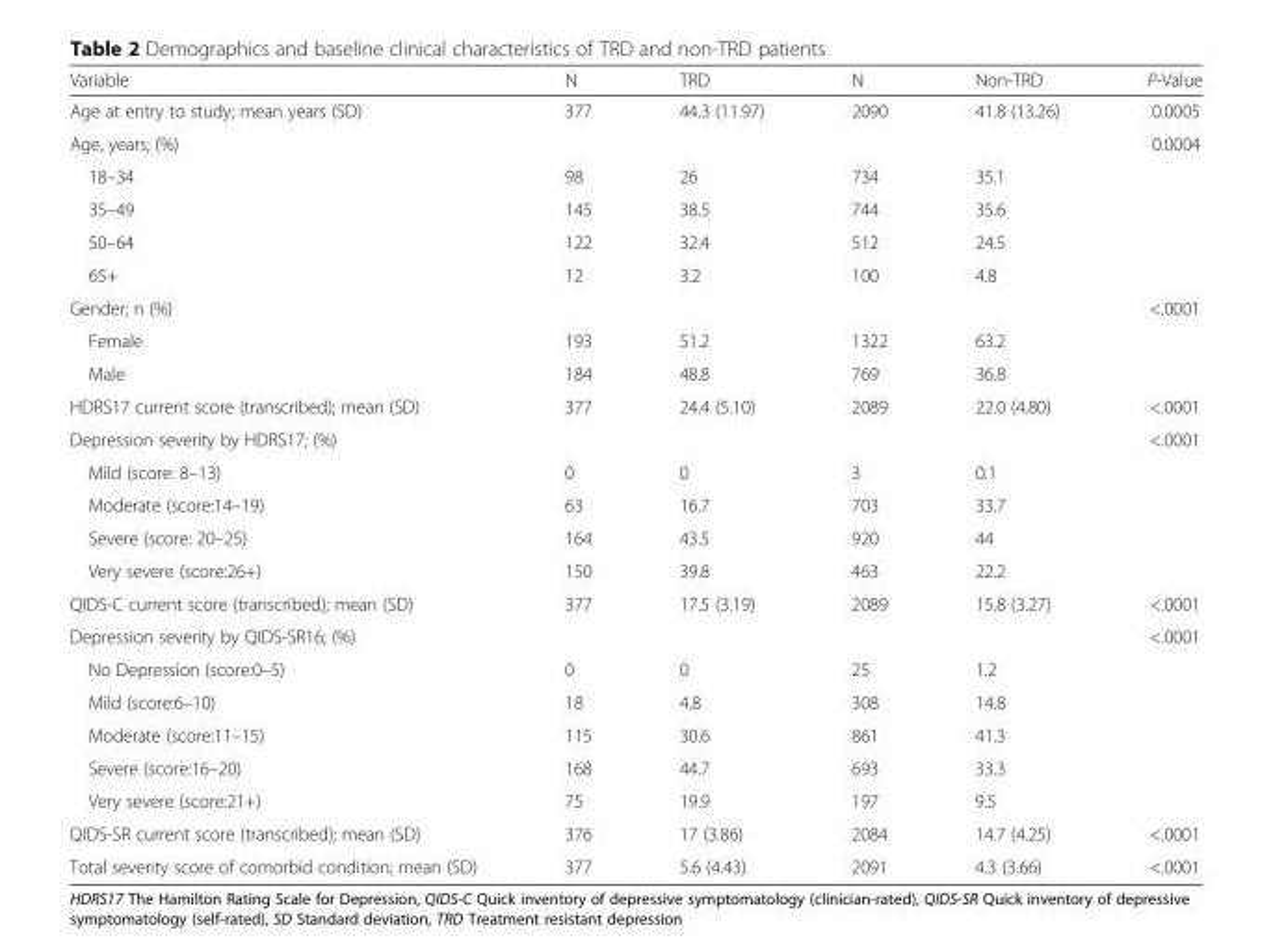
<table><thead><tr><td>Variable</td><td>N</td><td>TRD</td><td>N</td><td>Non-TRD</td><td>P-Value</td></tr></thead><tbody><tr><td>Age at entry to study; mean years (SD)</td><td>377</td><td>44.3 (11.97)</td><td>2090</td><td>41.8 (13.26)</td><td>0.0005</td></tr><tr><td colspan="5">Age, years; (%)</td><td>0.0004</td></tr><tr><td>18–34</td><td>98</td><td>26</td><td>734</td><td>35.1</td><td></td></tr><tr><td>35–49</td><td>145</td><td>38.5</td><td>744</td><td>35.6</td><td></td></tr><tr><td>50–64</td><td>122</td><td>32.4</td><td>512</td><td>24.5</td><td></td></tr><tr><td>65+</td><td>12</td><td>3.2</td><td>100</td><td>4.8</td><td></td></tr><tr><td colspan="5">Gender; n (%)</td><td>&lt;.0001</td></tr><tr><td>Female</td><td>193</td><td>51.2</td><td>1322</td><td>63.2</td><td></td></tr><tr><td>Male</td><td>184</td><td>48.8</td><td>769</td><td>36.8</td><td></td></tr><tr><td>HDRS17 current score (transcribed); mean (SD)</td><td>377</td><td>24.4 (5.10)</td><td>2089</td><td>22.0 (4.80)</td><td>&lt;.0001</td></tr><tr><td colspan="5">Depression severity by HDRS17; (%)</td><td>&lt;.0001</td></tr><tr><td>Mild (score: 8–13)</td><td>0</td><td>0</td><td>3</td><td>0.1</td><td></td></tr><tr><td>Moderate (score:14–19)</td><td>63</td><td>16.7</td><td>703</td><td>33.7</td><td></td></tr><tr><td>Severe (score: 20–25)</td><td>164</td><td>43.5</td><td>920</td><td>44</td><td></td></tr><tr><td>Very severe (score:26+)</td><td>150</td><td>39.8</td><td>463</td><td>22.2</td><td></td></tr><tr><td>QIDS-C current score (transcribed); mean (SD)</td><td>377</td><td>17.5 (3.19)</td><td>2089</td><td>15.8 (3.27)</td><td>&lt;.0001</td></tr><tr><td colspan="5">Depression severity by QIDS-SR16; (%)</td><td>&lt;.0001</td></tr><tr><td>No Depression (score:0–5)</td><td>0</td><td>0</td><td>25</td><td>1.2</td><td></td></tr><tr><td>Mild (score:6–10)</td><td>18</td><td>4.8</td><td>308</td><td>14.8</td><td></td></tr><tr><td>Moderate (score:11–15)</td><td>115</td><td>30.6</td><td>861</td><td>41.3</td><td></td></tr><tr><td>Severe (score:16–20)</td><td>168</td><td>44.7</td><td>693</td><td>33.3</td><td></td></tr><tr><td>Very severe (score:21+)</td><td>75</td><td>19.9</td><td>197</td><td>9.5</td><td></td></tr><tr><td>QIDS-SR current score (transcribed); mean (SD)</td><td>376</td><td>17 (3.86)</td><td>2084</td><td>14.7 (4.25)</td><td>&lt;.0001</td></tr><tr><td>Total severity score of comorbid condition; mean (SD)</td><td>377</td><td>5.6 (4.43)</td><td>2091</td><td>4.3 (3.66)</td><td>&lt;.0001</td></tr></tbody></table>